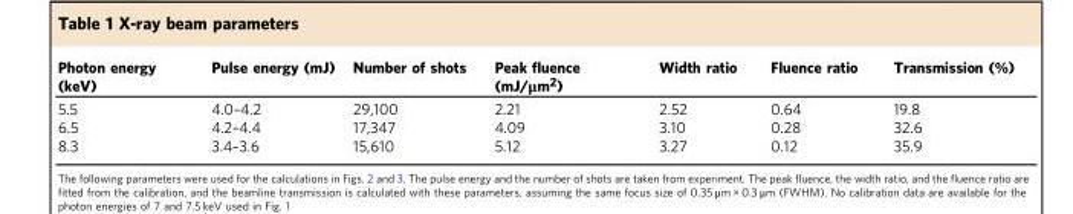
<table><thead><tr><td>Photon energy (keV)</td><td>Pulse energy (mJ)</td><td>Number of shots</td><td>Peak fluence (mJ/μm<sup>2</sup>)</td><td>Width ratio</td><td>Fluence ratio</td><td>Transmission (%)</td></tr></thead><tbody><tr><td>5.5</td><td>4.0–4.2</td><td>29,100</td><td>2.21</td><td>2.52</td><td>0.64</td><td>19.8</td></tr><tr><td>6.5</td><td>4.2–4.4</td><td>17,347</td><td>4.09</td><td>3.10</td><td>0.28</td><td>32.6</td></tr><tr><td>8.3</td><td>3.4–3.6</td><td>15,610</td><td>5.12</td><td>3.27</td><td>0.12</td><td>35.9</td></tr></tbody></table>